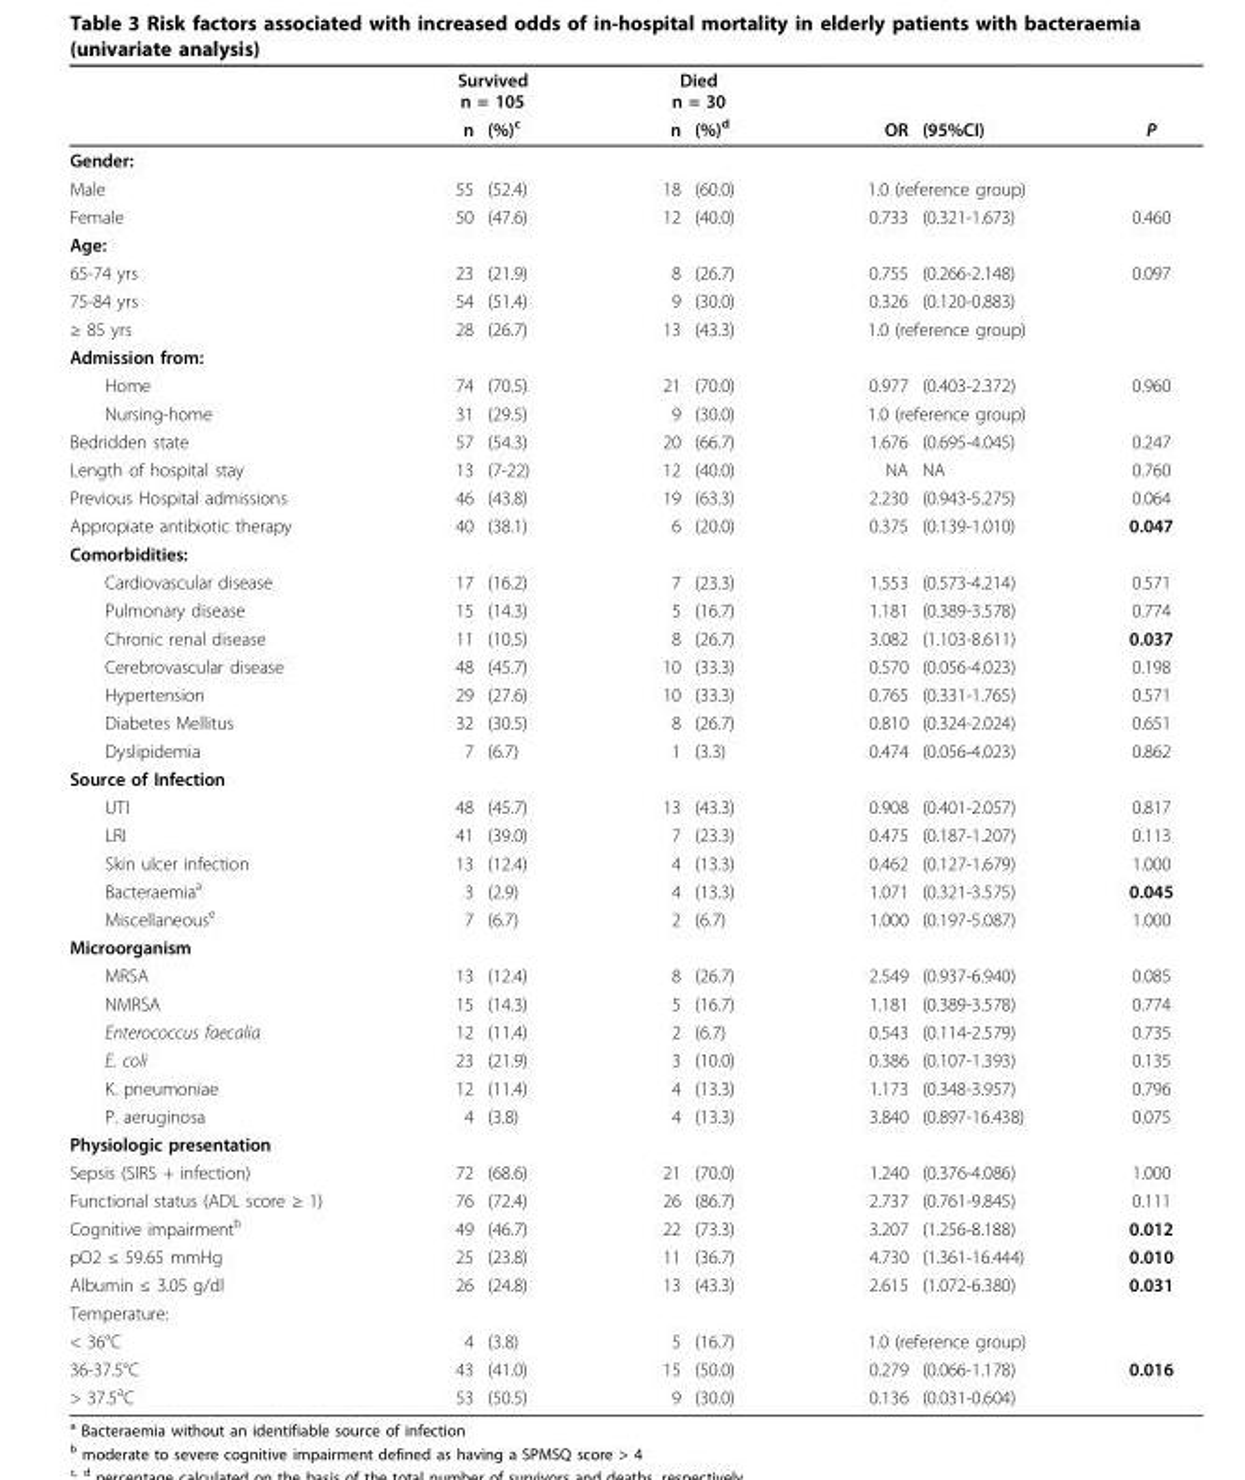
<table><thead><tr><td rowspan="2"></td><td colspan="2">Survived n = 105</td><td colspan="2">Died n = 30</td><td rowspan="2">OR</td><td rowspan="2">(95%CI)</td><td rowspan="2">P</td></tr><tr><td>n</td><td>(%)<sup>c</sup></td><td>n</td><td>(%)<sup>d</sup></td></tr></thead><tbody><tr><td colspan="8">Gender:</td></tr><tr><td>Male</td><td>55</td><td>(52.4)</td><td>18</td><td>(60.0)</td><td colspan="2">1.0 (reference group)</td><td></td></tr><tr><td>Female</td><td>50</td><td>(47.6)</td><td>12</td><td>(40.0)</td><td>0.733</td><td>(0.321-1.673)</td><td>0.460</td></tr><tr><td colspan="8">Age:</td></tr><tr><td>65-74 yrs</td><td>23</td><td>(21.9)</td><td>8</td><td>(26.7)</td><td>0.755</td><td>(0.266-2.148)</td><td>0.097</td></tr><tr><td>75-84 yrs</td><td>54</td><td>(51.4)</td><td>9</td><td>(30.0)</td><td>0.326</td><td>(0.120-0.883)</td><td></td></tr><tr><td>≥ 85 yrs</td><td>28</td><td>(26.7)</td><td>13</td><td>(43.3)</td><td colspan="2">1.0 (reference group)</td><td></td></tr><tr><td colspan="8">Admission from:</td></tr><tr><td>Home</td><td>74</td><td>(70.5)</td><td>21</td><td>(70.0)</td><td>0.977</td><td>(0.403-2.372)</td><td>0.960</td></tr><tr><td>Nursing-home</td><td>31</td><td>(29.5)</td><td>9</td><td>(30.0)</td><td colspan="2">1.0 (reference group)</td><td></td></tr><tr><td>Bedridden state</td><td>57</td><td>(54.3)</td><td>20</td><td>(66.7)</td><td>1.676</td><td>(0.695-4.045)</td><td>0.247</td></tr><tr><td>Length of hospital stay</td><td>13</td><td>(7-22)</td><td>12</td><td>(40.0)</td><td>NA</td><td>NA</td><td>0.760</td></tr><tr><td>Previous Hospital admissions</td><td>46</td><td>(43.8)</td><td>19</td><td>(63.3)</td><td>2.230</td><td>(0.943-5.275)</td><td>0.064</td></tr><tr><td>Appropiate antibiotic therapy</td><td>40</td><td>(38.1)</td><td>6</td><td>(20.0)</td><td>0.375</td><td>(0.139-1.010)</td><td>0.047</td></tr><tr><td colspan="8">Comorbidities:</td></tr><tr><td>Cardiovascular disease</td><td>17</td><td>(16.2)</td><td>7</td><td>(23.3)</td><td>1.553</td><td>(0.573-4.214)</td><td>0.571</td></tr><tr><td>Pulmonary disease</td><td>15</td><td>(14.3)</td><td>5</td><td>(16.7)</td><td>1.181</td><td>(0.389-3.578)</td><td>0.774</td></tr><tr><td>Chronic renal disease</td><td>11</td><td>(10.5)</td><td>8</td><td>(26.7)</td><td>3.082</td><td>(1.103-8.611)</td><td>0.037</td></tr><tr><td>Cerebrovascular disease</td><td>48</td><td>(45.7)</td><td>10</td><td>(33.3)</td><td>0.570</td><td>(0.056-4.023)</td><td>0.198</td></tr><tr><td>Hypertension</td><td>29</td><td>(27.6)</td><td>10</td><td>(33.3)</td><td>0.765</td><td>(0.331-1.765)</td><td>0.571</td></tr><tr><td>Diabetes Mellitus</td><td>32</td><td>(30.5)</td><td>8</td><td>(26.7)</td><td>0.810</td><td>(0.324-2.024)</td><td>0.651</td></tr><tr><td>Dyslipidemia</td><td>7</td><td>(6.7)</td><td>1</td><td>(3.3)</td><td>0.474</td><td>(0.056-4.023)</td><td>0.862</td></tr><tr><td colspan="8">Source of Infection</td></tr><tr><td>UTI</td><td>48</td><td>(45.7)</td><td>13</td><td>(43.3)</td><td>0.908</td><td>(0.401-2.057)</td><td>0.817</td></tr><tr><td>LRI</td><td>41</td><td>(39.0)</td><td>7</td><td>(23.3)</td><td>0.475</td><td>(0.187-1.207)</td><td>0.113</td></tr><tr><td>Skin ulcer infection</td><td>13</td><td>(12.4)</td><td>4</td><td>(13.3)</td><td>0.462</td><td>(0.127-1.679)</td><td>1.000</td></tr><tr><td>Bacteraemia<sup>a</sup></td><td>3</td><td>(2.9)</td><td>4</td><td>(13.3)</td><td>1.071</td><td>(0.321-3.575)</td><td>0.045</td></tr><tr><td>Miscellaneous<sup>e</sup></td><td>7</td><td>(6.7)</td><td>2</td><td>(6.7)</td><td>1.000</td><td>(0.197-5.087)</td><td>1.000</td></tr><tr><td colspan="8">Microorganism</td></tr><tr><td>MRSA</td><td>13</td><td>(12.4)</td><td>8</td><td>(26.7)</td><td>2.549</td><td>(0.937-6.940)</td><td>0.085</td></tr><tr><td>NMRSA</td><td>15</td><td>(14.3)</td><td>5</td><td>(16.7)</td><td>1.181</td><td>(0.389-3.578)</td><td>0.774</td></tr><tr><td>Enterococcus faecalia</td><td>12</td><td>(11.4)</td><td>2</td><td>(6.7)</td><td>0.543</td><td>(0.114-2.579)</td><td>0.735</td></tr><tr><td>E. coli</td><td>23</td><td>(21.9)</td><td>3</td><td>(10.0)</td><td>0.386</td><td>(0.107-1.393)</td><td>0.135</td></tr><tr><td>K. pneumoniae</td><td>12</td><td>(11.4)</td><td>4</td><td>(13.3)</td><td>1.173</td><td>(0.348-3.957)</td><td>0.796</td></tr><tr><td>P. aeruginosa</td><td>4</td><td>(3.8)</td><td>4</td><td>(13.3)</td><td>3.840</td><td>(0.897-16.438)</td><td>0.075</td></tr><tr><td colspan="8">Physiologic presentation</td></tr><tr><td>Sepsis (SIRS + infection)</td><td>72</td><td>(68.6)</td><td>21</td><td>(70.0)</td><td>1.240</td><td>(0.376-4.086)</td><td>1.000</td></tr><tr><td>Functional status (ADL score ≥ 1)</td><td>76</td><td>(72.4)</td><td>26</td><td>(86.7)</td><td>2.737</td><td>(0.761-9.845)</td><td>0.111</td></tr><tr><td>Cognitive impairment<sup>b</sup></td><td>49</td><td>(46.7)</td><td>22</td><td>(73.3)</td><td>3.207</td><td>(1.256-8.188)</td><td>0.012</td></tr><tr><td>pO2 ≤ 59.65 mmHg</td><td>25</td><td>(23.8)</td><td>11</td><td>(36.7)</td><td>4.730</td><td>(1.361-16.444)</td><td>0.010</td></tr><tr><td>Albumin ≤ 3.05 g/dl</td><td>26</td><td>(24.8)</td><td>13</td><td>(43.3)</td><td>2.615</td><td>(1.072-6.380)</td><td>0.031</td></tr><tr><td colspan="8">Temperature:</td></tr><tr><td>&lt; 36°C</td><td>4</td><td>(3.8)</td><td>5</td><td>(16.7)</td><td colspan="2">1.0 (reference group)</td><td></td></tr><tr><td>36-37.5°C</td><td>43</td><td>(41.0)</td><td>15</td><td>(50.0)</td><td>0.279</td><td>(0.066-1.178)</td><td>0.016</td></tr><tr><td>&gt; 37.5<sup>a</sup>C</td><td>53</td><td>(50.5)</td><td>9</td><td>(30.0)</td><td>0.136</td><td>(0.031-0.604)</td><td></td></tr></tbody></table>